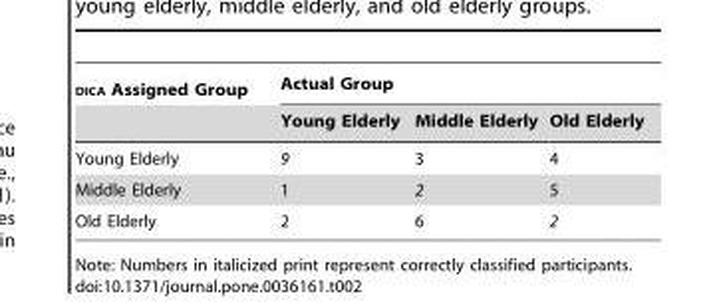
<table><thead><tr><td rowspan="2">DICA Assigned Group</td><td colspan="3">Actual Group</td></tr><tr><td>Young Elderly</td><td>Middle Elderly</td><td>Old Elderly</td></tr></thead><tbody><tr><td>Young Elderly</td><td>9</td><td>3</td><td>4</td></tr><tr><td>Middle Elderly</td><td>1</td><td>2</td><td>5</td></tr><tr><td>Old Elderly</td><td>2</td><td>6</td><td>2</td></tr></tbody></table>